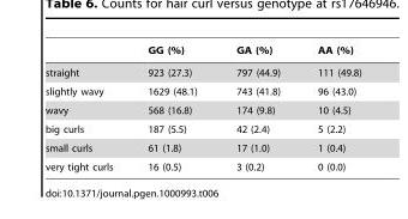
<table><thead><tr><td></td><td>GG (%)</td><td>GA (%)</td><td>AA (%)</td></tr></thead><tbody><tr><td>straight</td><td>923 (27.3)</td><td>797 (44.9)</td><td>111 (49.8)</td></tr><tr><td>slightly wavy</td><td>1629 (48.1)</td><td>743 (41.8)</td><td>96 (43.0)</td></tr><tr><td>wavy</td><td>568 (16.8)</td><td>174 (9.8)</td><td>10 (4.5)</td></tr><tr><td>big curls</td><td>187 (5.5)</td><td>42 (2.4)</td><td>5 (2.2)</td></tr><tr><td>small curls</td><td>61 (1.8)</td><td>17 (1.0)</td><td>1 (0.4)</td></tr><tr><td>very tight curls</td><td>16 (0.5)</td><td>3 (0.2)</td><td>0 (0.0)</td></tr></tbody></table>